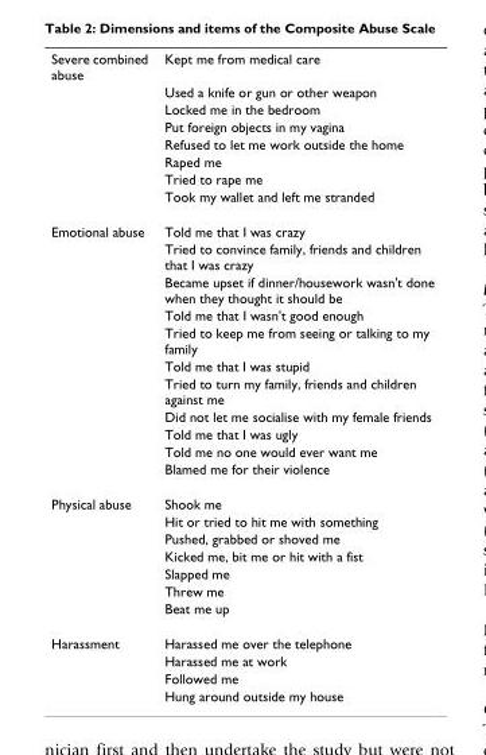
<table><tbody><tr><td rowspan="8">Severe combined abuse</td><td>Kept me from medical care</td></tr><tr><td>Used a knife or gun or other weapon</td></tr><tr><td>Locked me in the bedroom</td></tr><tr><td>Put foreign objects in my vagina</td></tr><tr><td>Refused to let me work outside the home</td></tr><tr><td>Raped me</td></tr><tr><td>Tried to rape me</td></tr><tr><td>Took my wallet and left me stranded</td></tr><tr><td rowspan="11">Emotional abuse</td><td>Told me that I was crazy</td></tr><tr><td>Tried to convince family, friends and children that I was crazy</td></tr><tr><td>Became upset if dinner/housework wasn&#x27;t done when they thought it should be</td></tr><tr><td>Told me that I wasn&#x27;t good enough</td></tr><tr><td>Tried to keep me from seeing or talking to my family</td></tr><tr><td>Told me that I was stupid</td></tr><tr><td>Tried to turn my family, friends and children against me</td></tr><tr><td>Did not let me socialise with my female friends</td></tr><tr><td>Told me that I was ugly</td></tr><tr><td>Told me no one would ever want me</td></tr><tr><td>Blamed me for their violence</td></tr><tr><td rowspan="7">Physical abuse</td><td>Shook me</td></tr><tr><td>Hit or tried to hit me with something</td></tr><tr><td>Pushed, grabbed or shoved me</td></tr><tr><td>Kicked me, bit me or hit with a fist</td></tr><tr><td>Slapped me</td></tr><tr><td>Threw me</td></tr><tr><td>Beat me up</td></tr><tr><td rowspan="4">Harassment</td><td>Harassed me over the telephone</td></tr><tr><td>Harassed me at work</td></tr><tr><td>Followed me</td></tr><tr><td>Hung around outside my house</td></tr></tbody></table>